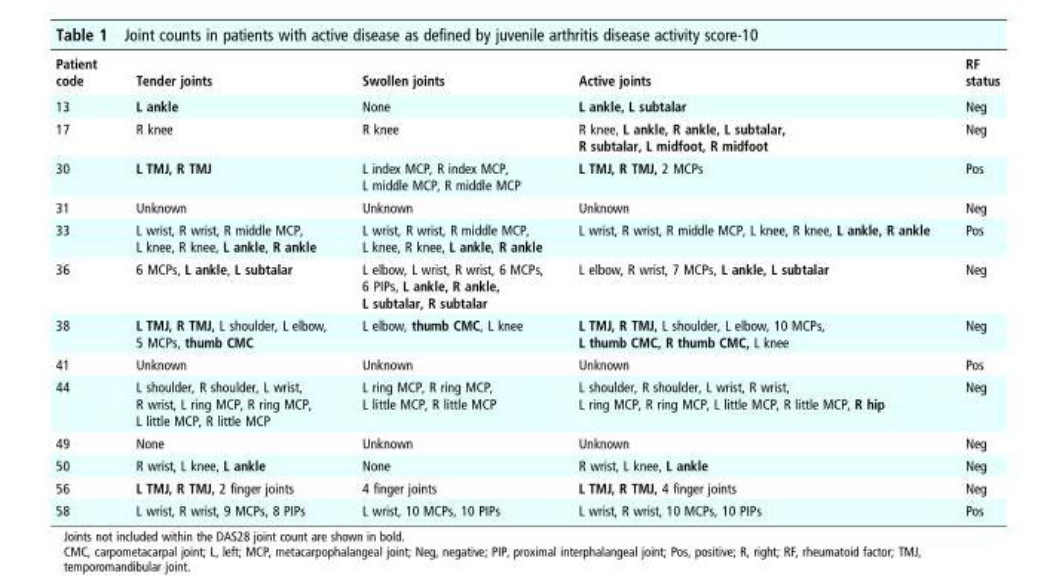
<table><thead><tr><td>Patient code</td><td>Tender joints</td><td>Swollen joints</td><td>Active joints</td><td>RF status</td></tr></thead><tbody><tr><td>13</td><td>L ankle</td><td>None</td><td>L ankle, L subtalar</td><td>Neg</td></tr><tr><td>17</td><td>R knee</td><td>R knee</td><td>R knee, L ankle, R ankle, L subtalar, R subtalar, L midfoot, R midfoot</td><td>Neg</td></tr><tr><td>30</td><td>L TMJ, R TMJ</td><td>L index MCP, R index MCP, L middle MCP, R middle MCP</td><td>L TMJ, R TMJ, 2 MCPs</td><td>Pos</td></tr><tr><td>31</td><td>Unknown</td><td>Unknown</td><td>Unknown</td><td>Neg</td></tr><tr><td>33</td><td>L wrist, R wrist, R middle MCP, L knee, R knee, L ankle, R ankle</td><td>L wrist, R wrist, R middle MCP, L knee, R knee, L ankle, R ankle</td><td>L wrist, R wrist, R middle MCP, L knee, R knee, L ankle, R ankle</td><td>Pos</td></tr><tr><td>36</td><td>6 MCPs, L ankle, L subtalar</td><td>L elbow, L wrist, R wrist, 6 MCPs, 6 PIPs, L ankle, R ankle, L subtalar, R subtalar</td><td>L elbow, R wrist, 7 MCPs, L ankle, L subtalar</td><td>Neg</td></tr><tr><td>38</td><td>L TMJ, R TMJ, L shoulder, L elbow, 5 MCPs, thumb CMC</td><td>L elbow, thumb CMC, L knee</td><td>L TMJ, R TMJ, L shoulder, L elbow, 10 MCPs, L thumb CMC, R thumb CMC, L knee</td><td>Neg</td></tr><tr><td>41</td><td>Unknown</td><td>Unknown</td><td>Unknown</td><td>Pos</td></tr><tr><td>44</td><td>L shoulder, R shoulder, L wrist, R wrist, L ring MCP, R ring MCP, L little MCP, R little MCP</td><td>L ring MCP, R ring MCP, L little MCP, R little MCP</td><td>L shoulder, R shoulder, L wrist, R wrist, L ring MCP, R ring MCP, L little MCP, R little MCP, R hip</td><td>Neg</td></tr><tr><td>49</td><td>None</td><td>Unknown</td><td>Unknown</td><td>Neg</td></tr><tr><td>50</td><td>R wrist, L knee, L ankle</td><td>None</td><td>R wrist, L knee, L ankle</td><td>Neg</td></tr><tr><td>56</td><td>L TMJ, R TMJ, 2 finger joints</td><td>4 finger joints</td><td>L TMJ, R TMJ, 4 finger joints</td><td>Neg</td></tr><tr><td>58</td><td>L wrist, R wrist, 9 MCPs, 8 PIPs</td><td>L wrist, 10 MCPs, 10 PIPs</td><td>L wrist, R wrist, 10 MCPs, 10 PIPs</td><td>Pos</td></tr></tbody></table>